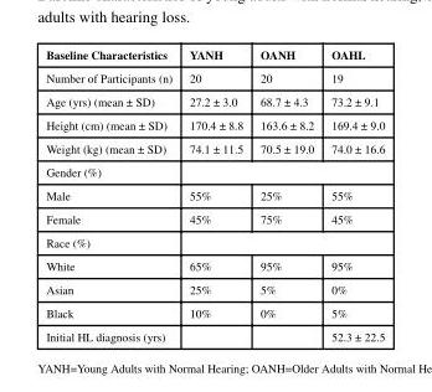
<table><thead><tr><td>Baseline Characteristics</td><td>YANH</td><td>OANH</td><td>OAHL</td></tr></thead><tbody><tr><td>Number of Participants (n)</td><td>20</td><td>20</td><td>19</td></tr><tr><td>Age (yrs) (mean ± SD)</td><td>27.2 ± 3.0</td><td>68.7 ± 4.3</td><td>73.2 ± 9.1</td></tr><tr><td>Height (cm) (mean ± SD)</td><td>170.4 ± 8.8</td><td>163.6 ± 8.2</td><td>169.4 ± 9.0</td></tr><tr><td>Weight (kg) (mean ± SD)</td><td>74.1 ± 11.5</td><td>70.5 ± 19.0</td><td>74.0 ± 16.6</td></tr><tr><td colspan="4">Gender (%)</td></tr><tr><td>Male</td><td>55%</td><td>25%</td><td>55%</td></tr><tr><td>Female</td><td>45%</td><td>75%</td><td>45%</td></tr><tr><td colspan="4">Race (%)</td></tr><tr><td>White</td><td>65%</td><td>95%</td><td>95%</td></tr><tr><td>Asian</td><td>25%</td><td>5%</td><td>0%</td></tr><tr><td>Black</td><td>10%</td><td>0%</td><td>5%</td></tr><tr><td>Initial HL diagnosis (yrs)</td><td></td><td></td><td>52.3 ± 22.5</td></tr></tbody></table>